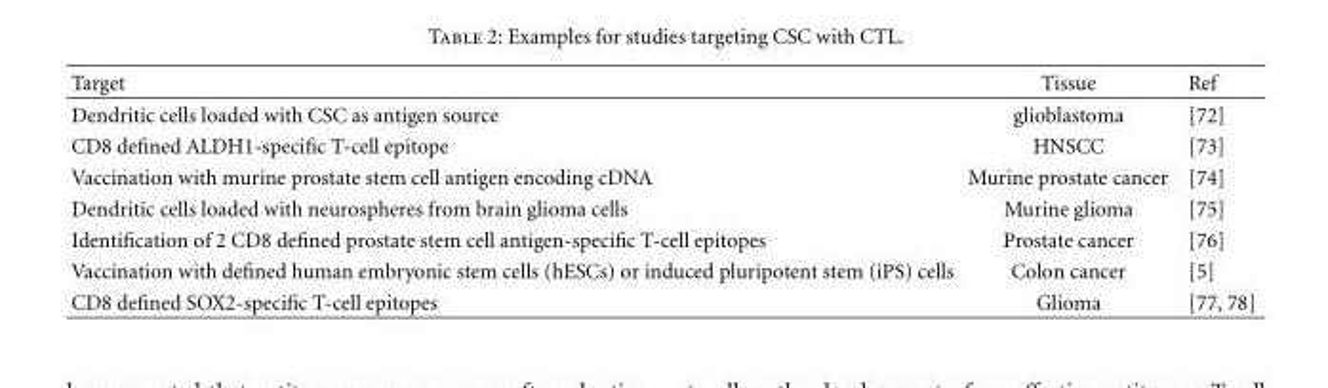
<table><thead><tr><td>Target</td><td>Tissue</td><td>Ref</td></tr></thead><tbody><tr><td>Dendritic cells loaded with CSC as antigen source</td><td>glioblastoma</td><td>[72]</td></tr><tr><td>CD8 defined ALDH1-specific T-cell epitope</td><td>HNSCC</td><td>[73]</td></tr><tr><td>Vaccination with murine prostate stem cell antigen encoding cDNA</td><td>Murine prostate cancer</td><td>[74]</td></tr><tr><td>Dendritic cells loaded with neurospheres from brain glioma cells</td><td>Murine glioma</td><td>[75]</td></tr><tr><td>Identification of 2 CD8 defined prostate stem cell antigen-specific T-cell epitopes</td><td>Prostate cancer</td><td>[76]</td></tr><tr><td>Vaccination with defined human embryonic stem cells (hESCs) or induced pluripotent stem (iPS) cells</td><td>Colon cancer</td><td>[5]</td></tr><tr><td>CD8 defined SOX2-specific T-cell epitopes</td><td>Glioma</td><td>[77, 78]</td></tr></tbody></table>